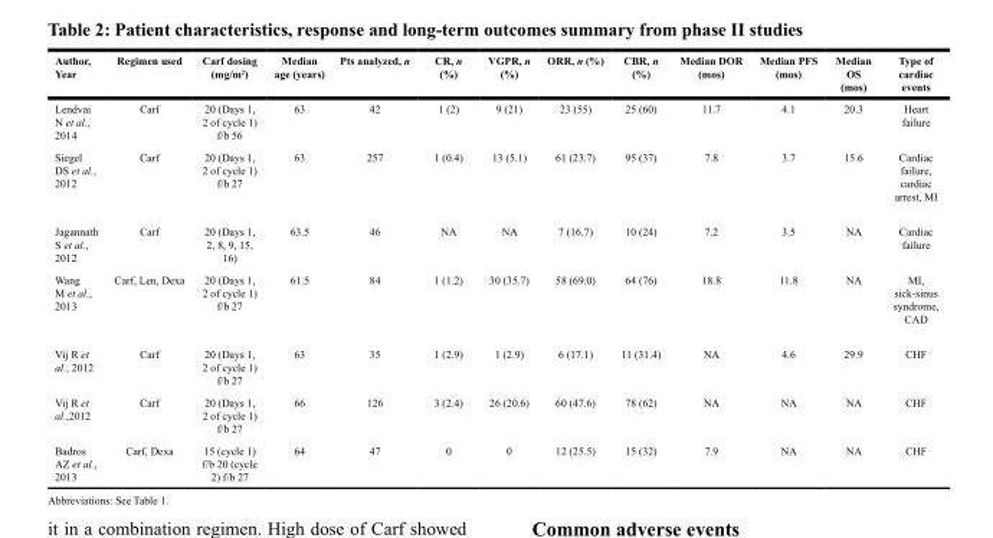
<table><thead><tr><td>Author, Year</td><td>Regimen used</td><td>Carf dosing (mg/m2)</td><td>Median age (years)</td><td>Pts analyzed, n</td><td>CR, n (%)</td><td>VGPR, n (%)</td><td>ORR, n (%)</td><td>CBR, n (%)</td><td>Median DOR (mos)</td><td>Median PFS (mos)</td><td>Median OS (mos)</td><td>Type of cardiac events</td></tr></thead><tbody><tr><td>Lendvai N et al., 2014</td><td>Carf</td><td>20 (Days 1, 2 of cycle 1) f/b 56</td><td>63</td><td>42</td><td>1 (2)</td><td>9 (21)</td><td>23 (55)</td><td>25 (60)</td><td>11.7</td><td>4.1</td><td>20.3</td><td>Heart failure</td></tr><tr><td>Siegel DS et al., 2012</td><td>Carf</td><td>20 (Days 1, 2 of cycle 1) f/b 27</td><td>63</td><td>257</td><td>1 (0.4)</td><td>13 (5.1)</td><td>61 (23.7)</td><td>95 (37)</td><td>7.8</td><td>3.7</td><td>15.6</td><td>Cardiac failure, cardiac arrest, MI</td></tr><tr><td>Jagannath S et al., 2012</td><td>Carf</td><td>20 (Days 1, 2, 8, 9, 15, 16)</td><td>63.5</td><td>46</td><td>NA</td><td>NA</td><td>7 (16.7)</td><td>10 (24)</td><td>7.2</td><td>3.5</td><td>NA</td><td>Cardiac failure</td></tr><tr><td>Wang M et al., 2013</td><td>Carf, Len, Dexa</td><td>20 (Days 1, 2 of cycle 1) f/b 27</td><td>61.5</td><td>84</td><td>1 (1.2)</td><td>30 (35.7)</td><td>58 (69.0)</td><td>64 (76)</td><td>18.8</td><td>11.8</td><td>NA</td><td>MI, sick-sinus syndrome, CAD</td></tr><tr><td>Vij R et al., 2012</td><td>Carf</td><td>20 (Days 1, 2 of cycle 1) f/b 27</td><td>63</td><td>35</td><td>1 (2.9)</td><td>1 (2.9)</td><td>6 (17.1)</td><td>11 (31.4)</td><td>NA</td><td>4.6</td><td>29.9</td><td>CHF</td></tr><tr><td>Vij R et al.,2012</td><td>Carf</td><td>20 (Days 1, 2 of cycle 1) f/b 27</td><td>66</td><td>126</td><td>3 (2.4)</td><td>26 (20.6)</td><td>60 (47.6)</td><td>78 (62)</td><td>NA</td><td>NA</td><td>NA</td><td>CHF</td></tr><tr><td>Badros AZ et al., 2013</td><td>Carf, Dexa</td><td>15 (cycle 1) f/b 20 (cycle 2) f/b 27</td><td>64</td><td>47</td><td>0</td><td>0</td><td>12 (25.5)</td><td>15 (32)</td><td>7.9</td><td>NA</td><td>NA</td><td>CHF</td></tr></tbody></table>